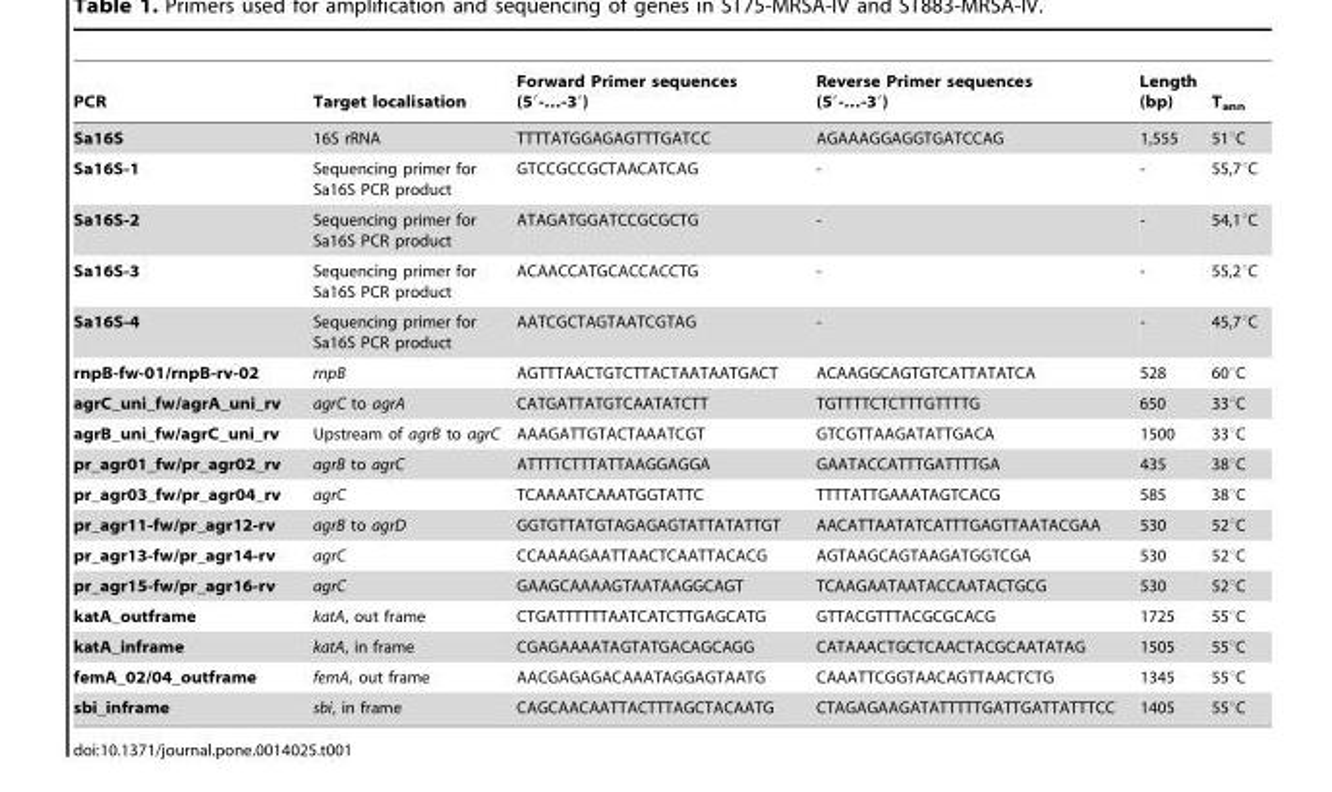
<table><thead><tr><td>PCR</td><td>Target localisation</td><td>Forward Primer sequences (5′-…-3′)</td><td>Reverse Primer sequences (5′-…-3′)</td><td>Length (bp)</td><td>T<sub>ann</sub></td></tr></thead><tbody><tr><td>Sa16S</td><td>16S rRNA</td><td>TTTTATGGAGAGTTTGATCC</td><td>AGAAAGGAGGTGATCCAG</td><td>1,555</td><td>51°C</td></tr><tr><td>Sa16S-1</td><td>Sequencing primer for Sa16S PCR product</td><td>GTCCGCCGCTAACATCAG</td><td>-</td><td>-</td><td>55,7°C</td></tr><tr><td>Sa16S-2</td><td>Sequencing primer for Sa16S PCR product</td><td>ATAGATGGATCCGCGCTG</td><td>-</td><td>-</td><td>54,1°C</td></tr><tr><td>Sa16S-3</td><td>Sequencing primer for Sa16S PCR product</td><td>ACAACCATGCACCACCTG</td><td>-</td><td>-</td><td>55,2°C</td></tr><tr><td>Sa16S-4</td><td>Sequencing primer for Sa16S PCR product</td><td>AATCGCTAGTAATCGTAG</td><td>-</td><td>-</td><td>45,7°C</td></tr><tr><td>rnpB-fw-01/rnpB-rv-02</td><td>rnpB</td><td>AGTTTAACTGTCTTACTAATAATGACT</td><td>ACAAGGCAGTGTCATTATATCA</td><td>528</td><td>60°C</td></tr><tr><td>agrC_uni_fw/agrA_uni_rv</td><td>agrC to agrA</td><td>CATGATTATGTCAATATCTT</td><td>TGTTTTCTCTTTGTTTTG</td><td>650</td><td>33°C</td></tr><tr><td>agrB_uni_fw/agrC_uni_rv</td><td>Upstream of agrB to agrC</td><td>AAAGATTGTACTAAATCGT</td><td>GTCGTTAAGATATTGACA</td><td>1500</td><td>33°C</td></tr><tr><td>pr_agr01_fw/pr_agr02_rv</td><td>agrB to agrC</td><td>ATTTTCTTTATTAAGGAGGA</td><td>GAATACCATTTGATTTTGA</td><td>435</td><td>38°C</td></tr><tr><td>pr_agr03_fw/pr_agr04_rv</td><td>agrC</td><td>TCAAAATCAAATGGTATTC</td><td>TTTTATTGAAATAGTCACG</td><td>585</td><td>38°C</td></tr><tr><td>pr_agr11-fw/pr_agr12-rv</td><td>agrB to agrD</td><td>GGTGTTATGTAGAGAGTATTATATTGT</td><td>AACATTAATATCATTTGAGTTAATACGAA</td><td>530</td><td>52°C</td></tr><tr><td>pr_agr13-fw/pr_agr14-rv</td><td>agrC</td><td>CCAAAAGAATTAACTCAATTACACG</td><td>AGTAAGCAGTAAGATGGTCGA</td><td>530</td><td>52°C</td></tr><tr><td>pr_agr15-fw/pr_agr16-rv</td><td>agrC</td><td>GAAGCAAAAGTAATAAGGCAGT</td><td>TCAAGAATAATACCAATACTGCG</td><td>530</td><td>52°C</td></tr><tr><td>katA_outframe</td><td>katA, out frame</td><td>CTGATTTTTTAATCATCTTGAGCATG</td><td>GTTACGTTTACGCGCACG</td><td>1725</td><td>55°C</td></tr><tr><td>katA_inframe</td><td>katA, in frame</td><td>CGAGAAAATAGTATGACAGCAGG</td><td>CATAAACTGCTCAACTACGCAATATAG</td><td>1505</td><td>55°C</td></tr><tr><td>femA_02/04_outframe</td><td>femA, out frame</td><td>AACGAGAGACAAATAGGAGTAATG</td><td>CAAATTCGGTAACAGTTAACTCTG</td><td>1345</td><td>55°C</td></tr><tr><td>sbi_inframe</td><td>sbi, in frame</td><td>CAGCAACAATTACTTTAGCTACAATG</td><td>CTAGAGAAGATATTTTTGATTGATTATTTCC</td><td>1405</td><td>55°C</td></tr></tbody></table>